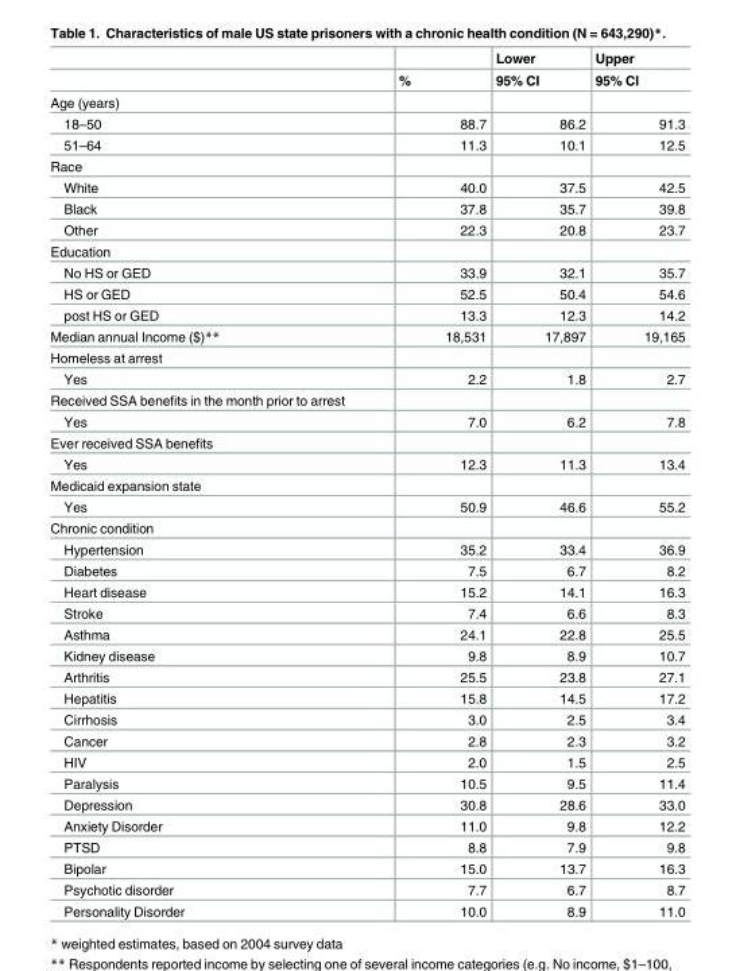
<table><thead><tr><td rowspan="2"></td><td rowspan="2">%</td><td rowspan="2">Lower 95% CI</td><td rowspan="2">Upper 95% CI</td></tr><tr></tr></thead><tbody><tr><td colspan="4">Age (years)</td></tr><tr><td>18–50</td><td>88.7</td><td>86.2</td><td>91.3</td></tr><tr><td>51–64</td><td>11.3</td><td>10.1</td><td>12.5</td></tr><tr><td colspan="4">Race</td></tr><tr><td>White</td><td>40.0</td><td>37.5</td><td>42.5</td></tr><tr><td>Black</td><td>37.8</td><td>35.7</td><td>39.8</td></tr><tr><td>Other</td><td>22.3</td><td>20.8</td><td>23.7</td></tr><tr><td colspan="4">Education</td></tr><tr><td>No HS or GED</td><td>33.9</td><td>32.1</td><td>35.7</td></tr><tr><td>HS or GED</td><td>52.5</td><td>50.4</td><td>54.6</td></tr><tr><td>post HS or GED</td><td>13.3</td><td>12.3</td><td>14.2</td></tr><tr><td>Median annual Income ($)**</td><td>18,531</td><td>17,897</td><td>19,165</td></tr><tr><td colspan="4">Homeless at arrest</td></tr><tr><td>Yes</td><td>2.2</td><td>1.8</td><td>2.7</td></tr><tr><td colspan="4">Received SSA benefits in the month prior to arrest</td></tr><tr><td>Yes</td><td>7.0</td><td>6.2</td><td>7.8</td></tr><tr><td colspan="4">Ever received SSA benefits</td></tr><tr><td>Yes</td><td>12.3</td><td>11.3</td><td>13.4</td></tr><tr><td colspan="4">Medicaid expansion state</td></tr><tr><td>Yes</td><td>50.9</td><td>46.6</td><td>55.2</td></tr><tr><td colspan="4">Chronic condition</td></tr><tr><td>Hypertension</td><td>35.2</td><td>33.4</td><td>36.9</td></tr><tr><td>Diabetes</td><td>7.5</td><td>6.7</td><td>8.2</td></tr><tr><td>Heart disease</td><td>15.2</td><td>14.1</td><td>16.3</td></tr><tr><td>Stroke</td><td>7.4</td><td>6.6</td><td>8.3</td></tr><tr><td>Asthma</td><td>24.1</td><td>22.8</td><td>25.5</td></tr><tr><td>Kidney disease</td><td>9.8</td><td>8.9</td><td>10.7</td></tr><tr><td>Arthritis</td><td>25.5</td><td>23.8</td><td>27.1</td></tr><tr><td>Hepatitis</td><td>15.8</td><td>14.5</td><td>17.2</td></tr><tr><td>Cirrhosis</td><td>3.0</td><td>2.5</td><td>3.4</td></tr><tr><td>Cancer</td><td>2.8</td><td>2.3</td><td>3.2</td></tr><tr><td>HIV</td><td>2.0</td><td>1.5</td><td>2.5</td></tr><tr><td>Paralysis</td><td>10.5</td><td>9.5</td><td>11.4</td></tr><tr><td>Depression</td><td>30.8</td><td>28.6</td><td>33.0</td></tr><tr><td>Anxiety Disorder</td><td>11.0</td><td>9.8</td><td>12.2</td></tr><tr><td>PTSD</td><td>8.8</td><td>7.9</td><td>9.8</td></tr><tr><td>Bipolar</td><td>15.0</td><td>13.7</td><td>16.3</td></tr><tr><td>Psychotic disorder</td><td>7.7</td><td>6.7</td><td>8.7</td></tr><tr><td>Personality Disorder</td><td>10.0</td><td>8.9</td><td>11.0</td></tr></tbody></table>